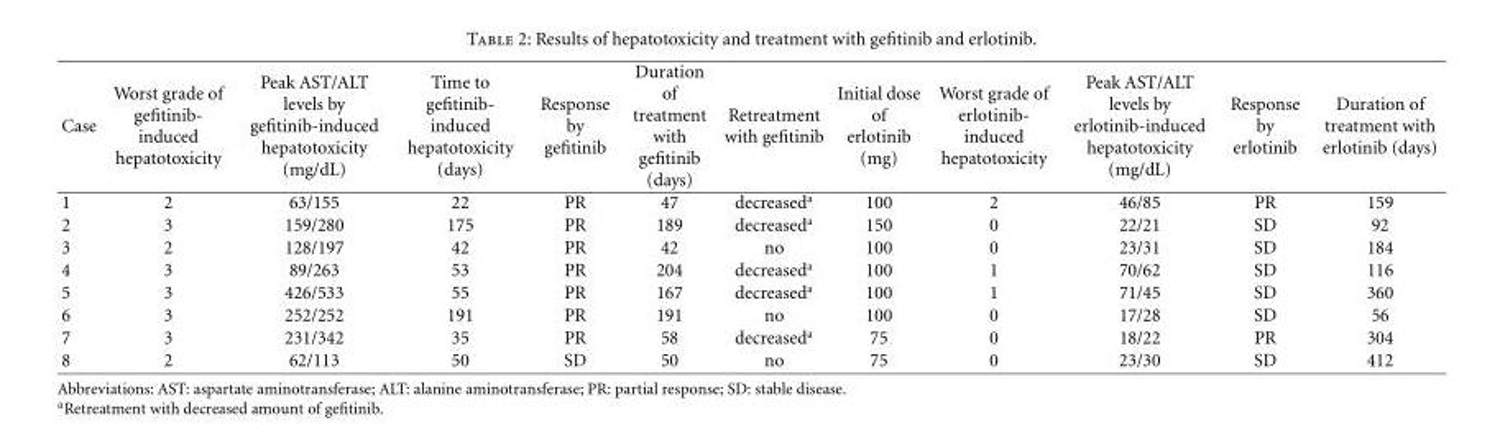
<table><thead><tr><td>Case</td><td>Worst grade of gefitinib- induced hepatotoxicity</td><td>Peak AST/ALT levels by gefitinib-induced hepatotoxicity (mg/dL)</td><td>Time to gefitinib- induced hepatotoxicity (days)</td><td>Response by gefitinib</td><td>Duration of treatment with gefitinib (days)</td><td>Retreatment with gefitinib</td><td>Initial dose of erlotinib (mg)</td><td>Worst grade of erlotinib- induced hepatotoxicity</td><td>Peak AST/ALT levels by erlotinib-induced hepatotoxicity (mg/dL)</td><td>Response by erlotinib</td><td>Duration of treatment with erlotinib (days)</td></tr></thead><tbody><tr><td>1</td><td>2</td><td>63/155</td><td>22</td><td>PR</td><td>47</td><td>decreased<sup>a</sup></td><td>100</td><td>2</td><td>46/85</td><td>PR</td><td>159</td></tr><tr><td>2</td><td>3</td><td>159/280</td><td>175</td><td>PR</td><td>189</td><td>decreased<sup>a</sup></td><td>150</td><td>0</td><td>22/21</td><td>SD</td><td>92</td></tr><tr><td>3</td><td>2</td><td>128/197</td><td>42</td><td>PR</td><td>42</td><td>no</td><td>100</td><td>0</td><td>23/31</td><td>SD</td><td>184</td></tr><tr><td>4</td><td>3</td><td>89/263</td><td>53</td><td>PR</td><td>204</td><td>decreased<sup>a</sup></td><td>100</td><td>1</td><td>70/62</td><td>SD</td><td>116</td></tr><tr><td>5</td><td>3</td><td>426/533</td><td>55</td><td>PR</td><td>167</td><td>decreased<sup>a</sup></td><td>100</td><td>1</td><td>71/45</td><td>SD</td><td>360</td></tr><tr><td>6</td><td>3</td><td>252/252</td><td>191</td><td>PR</td><td>191</td><td>no</td><td>100</td><td>0</td><td>17/28</td><td>SD</td><td>56</td></tr><tr><td>7</td><td>3</td><td>231/342</td><td>35</td><td>PR</td><td>58</td><td>decreased<sup>a</sup></td><td>75</td><td>0</td><td>18/22</td><td>PR</td><td>304</td></tr><tr><td>8</td><td>2</td><td>62/113</td><td>50</td><td>SD</td><td>50</td><td>no</td><td>75</td><td>0</td><td>23/30</td><td>SD</td><td>412</td></tr></tbody></table>